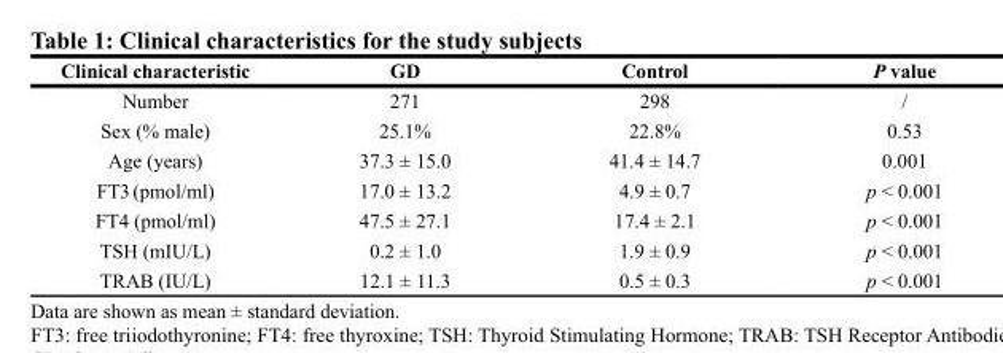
<table><thead><tr><td>Clinical characteristic</td><td>GD</td><td>Control</td><td>P value</td></tr></thead><tbody><tr><td>Number</td><td>271</td><td>298</td><td>/</td></tr><tr><td>Sex (% male)</td><td>25.1%</td><td>22.8%</td><td>0.53</td></tr><tr><td>Age (years)</td><td>37.3 ± 15.0</td><td>41.4 ± 14.7</td><td>0.001</td></tr><tr><td>FT3 (pmol/ml)</td><td>17.0 ± 13.2</td><td>4.9 ± 0.7</td><td>p &lt; 0.001</td></tr><tr><td>FT4 (pmol/ml)</td><td>47.5 ± 27.1</td><td>17.4 ± 2.1</td><td>p &lt; 0.001</td></tr><tr><td>TSH (mIU/L)</td><td>0.2 ± 1.0</td><td>1.9 ± 0.9</td><td>p &lt; 0.001</td></tr><tr><td>TRAB (IU/L)</td><td>12.1 ± 11.3</td><td>0.5 ± 0.3</td><td>p &lt; 0.001</td></tr></tbody></table>